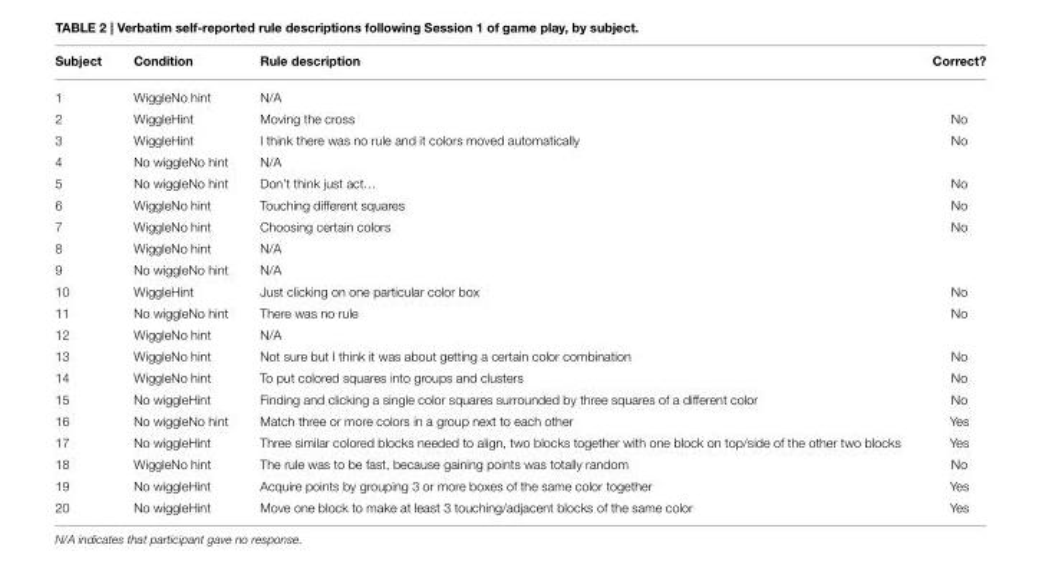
<table><thead><tr><td>Subject</td><td>Condition</td><td>Rule description</td><td>Correct?</td></tr></thead><tbody><tr><td>1</td><td>WiggleNo hint</td><td>N/A</td><td></td></tr><tr><td>2</td><td>WiggleHint</td><td>Moving the cross</td><td>No</td></tr><tr><td>3</td><td>WiggleHint</td><td>I think there was no rule and it colors moved automatically</td><td>No</td></tr><tr><td>4</td><td>No wiggleNo hint</td><td>N/A</td><td></td></tr><tr><td>5</td><td>No wiggleNo hint</td><td>Don’t think just act…</td><td>No</td></tr><tr><td>6</td><td>WiggleNo hint</td><td>Touching different squares</td><td>No</td></tr><tr><td>7</td><td>WiggleNo hint</td><td>Choosing certain colors</td><td>No</td></tr><tr><td>8</td><td>WiggleNo hint</td><td>N/A</td><td></td></tr><tr><td>9</td><td>No wiggleNo hint</td><td>N/A</td><td></td></tr><tr><td>10</td><td>WiggleHint</td><td>Just clicking on one particular color box</td><td>No</td></tr><tr><td>11</td><td>No wiggleNo hint</td><td>There was no rule</td><td>No</td></tr><tr><td>12</td><td>WiggleNo hint</td><td>N/A</td><td></td></tr><tr><td>13</td><td>WiggleNo hint</td><td>Not sure but I think it was about getting a certain color combination</td><td>No</td></tr><tr><td>14</td><td>WiggleNo hint</td><td>To put colored squares into groups and clusters</td><td>No</td></tr><tr><td>15</td><td>No wiggleHint</td><td>Finding and clicking a single color squares surrounded by three squares of a different color</td><td>No</td></tr><tr><td>16</td><td>No wiggleNo hint</td><td>Match three or more colors in a group next to each other</td><td>Yes</td></tr><tr><td>17</td><td>No wiggleHint</td><td>Three similar colored blocks needed to align, two blocks together with one block on top/side of the other two blocks</td><td>Yes</td></tr><tr><td>18</td><td>WiggleNo hint</td><td>The rule was to be fast, because gaining points was totally random</td><td>No</td></tr><tr><td>19</td><td>No wiggleHint</td><td>Acquire points by grouping 3 or more boxes of the same color together</td><td>Yes</td></tr><tr><td>20</td><td>No wiggleHint</td><td>Move one block to make at least 3 touching/adjacent blocks of the same color</td><td>Yes</td></tr></tbody></table>